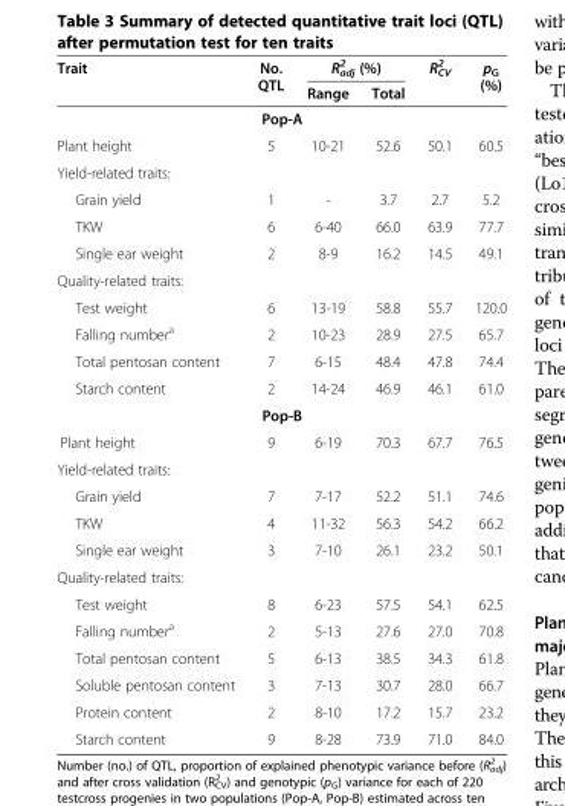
<table><thead><tr><td rowspan="2">Trait</td><td rowspan="2">No. QTL</td><td colspan="2">R<sup>2</sup> <sub>adj</sub> (%)</td><td rowspan="2">R<sup>2</sup> <sub>CV</sub></td><td rowspan="2">p<sub>G</sub> (%)</td></tr><tr><td>Range</td><td>Total</td></tr></thead><tbody><tr><td></td><td>Pop-A</td><td></td><td></td><td></td><td></td></tr><tr><td>Plant height</td><td>5</td><td>10-21</td><td>52.6</td><td>50.1</td><td>60.5</td></tr><tr><td colspan="6">Yield-related traits:</td></tr><tr><td>Grain yield</td><td>1</td><td>-</td><td>3.7</td><td>2.7</td><td>5.2</td></tr><tr><td>TKW</td><td>6</td><td>6-40</td><td>66.0</td><td>63.9</td><td>77.7</td></tr><tr><td>Single ear weight</td><td>2</td><td>8-9</td><td>16.2</td><td>14.5</td><td>49.1</td></tr><tr><td colspan="6">Quality-related traits:</td></tr><tr><td>Test weight</td><td>6</td><td>13-19</td><td>58.8</td><td>55.7</td><td>120.0</td></tr><tr><td>Falling number<sup>a</sup></td><td>2</td><td>10-23</td><td>28.9</td><td>27.5</td><td>65.7</td></tr><tr><td>Total pentosan content</td><td>7</td><td>6-15</td><td>48.4</td><td>47.8</td><td>74.4</td></tr><tr><td rowspan="2">Starch content</td><td>2</td><td>14-24</td><td>46.9</td><td>46.1</td><td>61.0</td></tr><tr><td>Pop-B</td><td></td><td></td><td></td><td></td></tr><tr><td>Plant height</td><td>9</td><td>6-19</td><td>70.3</td><td>67.7</td><td>76.5</td></tr><tr><td colspan="6">Yield-related traits:</td></tr><tr><td>Grain yield</td><td>7</td><td>7-17</td><td>52.2</td><td>51.1</td><td>74.6</td></tr><tr><td>TKW</td><td>4</td><td>11-32</td><td>56.3</td><td>54.2</td><td>66.2</td></tr><tr><td>Single ear weight</td><td>3</td><td>7-10</td><td>26.1</td><td>23.2</td><td>50.1</td></tr><tr><td colspan="6">Quality-related traits:</td></tr><tr><td>Test weight</td><td>8</td><td>6-23</td><td>57.5</td><td>54.1</td><td>62.5</td></tr><tr><td>Falling number<sup>a</sup></td><td>2</td><td>5-13</td><td>27.6</td><td>27.0</td><td>70.8</td></tr><tr><td>Total pentosan content</td><td>5</td><td>6-13</td><td>38.5</td><td>34.3</td><td>61.8</td></tr><tr><td>Soluble pentosan content</td><td>3</td><td>7-13</td><td>30.7</td><td>28.0</td><td>66.7</td></tr><tr><td>Protein content</td><td>2</td><td>8-10</td><td>17.2</td><td>15.7</td><td>23.2</td></tr><tr><td>Starch content</td><td>9</td><td>8-28</td><td>73.9</td><td>71.0</td><td>84.0</td></tr></tbody></table>